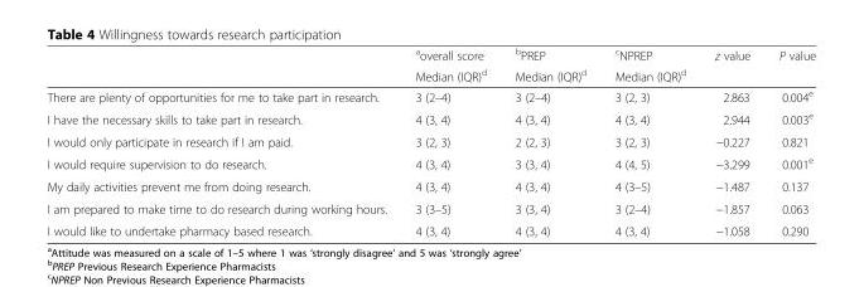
<table><thead><tr><td rowspan="2"></td><td rowspan="2"><sup>a</sup>overall score Median (IQR)<sup>d</sup></td><td rowspan="2"><sup>b</sup>PREP Median (IQR)<sup>d</sup></td><td rowspan="2"><sup>c</sup>NPREP Median (IQR)<sup>d</sup></td><td rowspan="2">z value</td><td rowspan="2">P value</td></tr><tr></tr></thead><tbody><tr><td>There are plenty of opportunities for me to take part in research.</td><td>3 (2–4)</td><td>3 (2–4)</td><td>3 (2, 3)</td><td>2.863</td><td>0.004<sup>e</sup></td></tr><tr><td>I have the necessary skills to take part in research.</td><td>4 (3, 4)</td><td>4 (3, 4)</td><td>4 (3, 4)</td><td>2.944</td><td>0.003<sup>e</sup></td></tr><tr><td>I would only participate in research if I am paid.</td><td>3 (2, 3)</td><td>2 (2, 3)</td><td>3 (2, 3)</td><td>−0.227</td><td>0.821</td></tr><tr><td>I would require supervision to do research.</td><td>4 (3, 4)</td><td>3 (3, 4)</td><td>4 (4, 5)</td><td>−3.299</td><td>0.001<sup>e</sup></td></tr><tr><td>My daily activities prevent me from doing research.</td><td>4 (3, 4)</td><td>4 (3, 4)</td><td>4 (3–5)</td><td>−1.487</td><td>0.137</td></tr><tr><td>I am prepared to make time to do research during working hours.</td><td>3 (3–5)</td><td>3 (3, 4)</td><td>3 (2–4)</td><td>−1.857</td><td>0.063</td></tr><tr><td>I would like to undertake pharmacy based research.</td><td>4 (3, 4)</td><td>4 (3, 4)</td><td>4 (3, 4)</td><td>−1.058</td><td>0.290</td></tr></tbody></table>